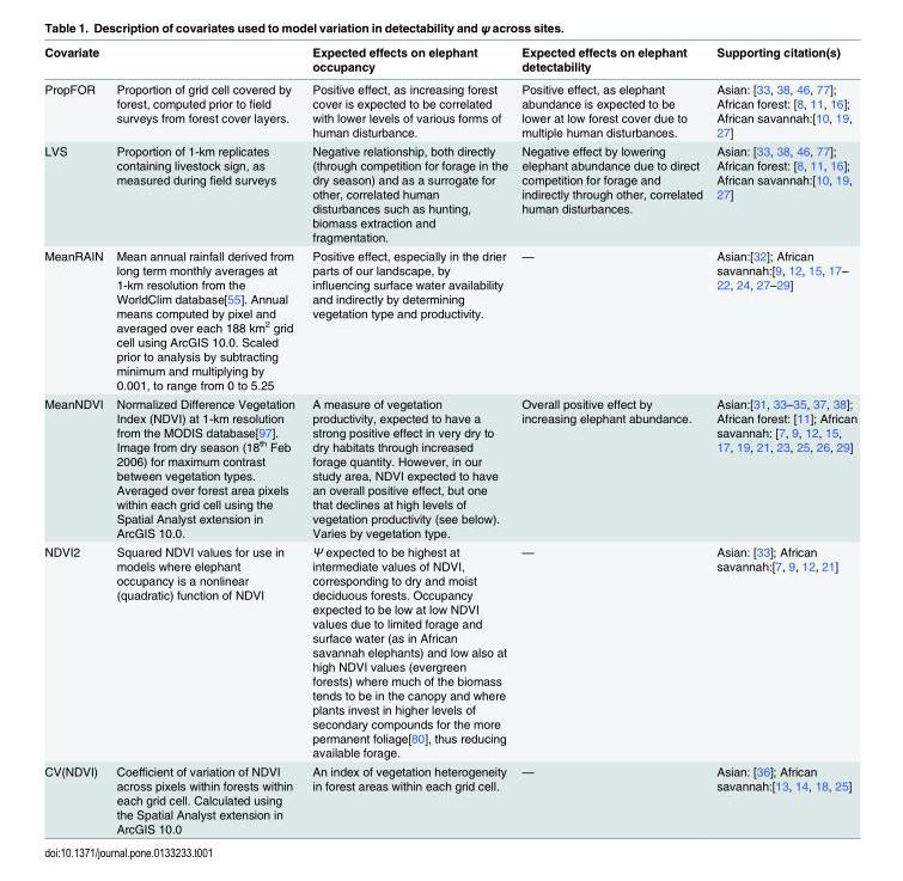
<table><thead><tr><td>Covariate</td><td></td><td>Expected effects on elephant occupancy</td><td>Expected effects on elephant detectability</td><td>Supporting citation(s)</td></tr></thead><tbody><tr><td>PropFOR</td><td>Proportion of grid cell covered by forest, computed prior to field surveys from forest cover layers.</td><td>Positive effect, as increasing forest cover is expected to be correlated with lower levels of various forms of human disturbance.</td><td>Positive effect, as elephant abundance is expected to be lower at low forest cover due to multiple human disturbances.</td><td>Asian: [33, 38, 46, 77]; African forest: [8, 11, 16]; African savannah:[10, 19, 27]</td></tr><tr><td>LVS</td><td>Proportion of 1-km replicates containing livestock sign, as measured during field surveys</td><td>Negative relationship, both directly (through competition for forage in the dry season) and as a surrogate for other, correlated human disturbances such as hunting, biomass extraction and fragmentation.</td><td>Negative effect by lowering elephant abundance due to direct competition for forage and indirectly through other, correlated human disturbances.</td><td>Asian: [33, 38, 46, 77]; African forest: [8, 11, 16]; African savannah:[10, 19, 27]</td></tr><tr><td>MeanRAIN</td><td>Mean annual rainfall derived from long term monthly averages at 1-km resolution from the WorldClim database[55]. Annual means computed by pixel and averaged over each 188 km<sup>2</sup> grid cell using ArcGIS 10.0. Scaled prior to analysis by subtracting minimum and multiplying by 0.001, to range from 0 to 5.25</td><td>Positive effect, especially in the drier parts of our landscape, by influencing surface water availability and indirectly by determining vegetation type and productivity.</td><td>—</td><td>Asian:[32]; African savannah:[9, 12, 15, 17– 22, 24, 27–29]</td></tr><tr><td>MeanNDVI</td><td>Normalized Difference Vegetation Index (NDVI) at 1-km resolution from the MODIS database[97]. Image from dry season (18<sup>th</sup> Feb 2006) for maximum contrast between vegetation types. Averaged over forest area pixels within each grid cell using the Spatial Analyst extension in ArcGIS 10.0.</td><td>A measure of vegetation productivity, expected to have a strong positive effect in very dry to dry habitats through increased forage quantity. However, in our study area, NDVI expected to have an overall positive effect, but one that declines at high levels of vegetation productivity (see below). Varies by vegetation type.</td><td>Overall positive effect by increasing elephant abundance.</td><td>Asian:[31, 33–35, 37, 38]; African forest: [11]; African savannah: [7, 9, 12, 15, 17, 19, 21, 23, 25, 26, 29]</td></tr><tr><td>NDVI2</td><td>Squared NDVI values for use in models where elephant occupancy is a nonlinear (quadratic) function of NDVI</td><td>Ψ expected to be highest at intermediate values of NDVI, corresponding to dry and moist deciduous forests. Occupancy expected to be low at low NDVI values due to limited forage and surface water (as in African savannah elephants) and low also at high NDVI values (evergreen forests) where much of the biomass tends to be in the canopy and where plants invest in higher levels of secondary compounds for the more permanent foliage[80], thus reducing available forage.</td><td>—</td><td>Asian: [33]; African savannah:[7, 9, 12, 21]</td></tr><tr><td>CV(NDVI)</td><td>Coefficient of variation of NDVI across pixels within forests within each grid cell. Calculated using the Spatial Analyst extension in ArcGIS 10.0</td><td>An index of vegetation heterogeneity in forest areas within each grid cell.</td><td>—</td><td>Asian: [36]; African savannah:[13, 14, 18, 25]</td></tr></tbody></table>